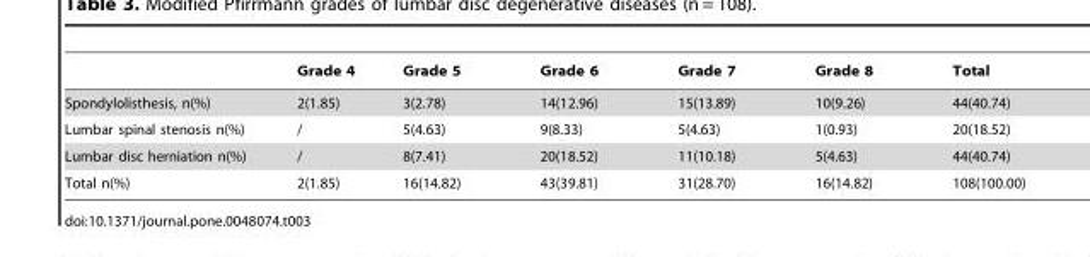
<table><thead><tr><td></td><td>Grade 4</td><td>Grade 5</td><td>Grade 6</td><td>Grade 7</td><td>Grade 8</td><td>Total</td></tr></thead><tbody><tr><td>Spondylolisthesis, n(%)</td><td>2(1.85)</td><td>3(2.78)</td><td>14(12.96)</td><td>15(13.89)</td><td>10(9.26)</td><td>44(40.74)</td></tr><tr><td>Lumbar spinal stenosis n(%)</td><td>/</td><td>5(4.63)</td><td>9(8.33)</td><td>5(4.63)</td><td>1(0.93)</td><td>20(18.52)</td></tr><tr><td>Lumbar disc herniation n(%)</td><td>/</td><td>8(7.41)</td><td>20(18.52)</td><td>11(10.18)</td><td>5(4.63)</td><td>44(40.74)</td></tr><tr><td>Total n(%)</td><td>2(1.85)</td><td>16(14.82)</td><td>43(39.81)</td><td>31(28.70)</td><td>16(14.82)</td><td>108(100.00)</td></tr></tbody></table>